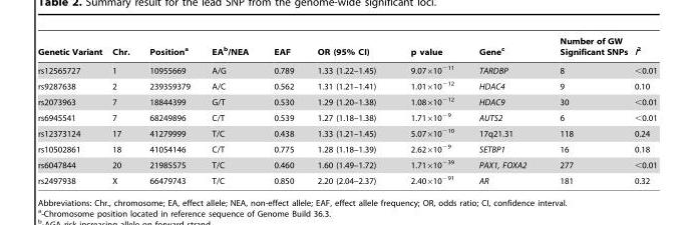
<table><thead><tr><td>Genetic Variant</td><td>Chr.</td><td>Position<sup>a</sup></td><td>EA<sup>b</sup>/NEA</td><td>EAF</td><td>OR (95% CI)</td><td>p value</td><td>Gene<sup>c</sup></td><td>Number of GW Significant SNPs</td><td>I<sup>2</sup></td></tr></thead><tbody><tr><td>rs12565727</td><td>1</td><td>10955669</td><td>A/G</td><td>0.789</td><td>1.33 (1.22–1.45)</td><td>9.07×10<sup>−11</sup></td><td>TARDBP</td><td>8</td><td>&lt;0.01</td></tr><tr><td>rs9287638</td><td>2</td><td>239359379</td><td>A/C</td><td>0.562</td><td>1.31 (1.21–1.41)</td><td>1.01×10<sup>−12</sup></td><td>HDAC4</td><td>9</td><td>0.10</td></tr><tr><td>rs2073963</td><td>7</td><td>18844399</td><td>G/T</td><td>0.530</td><td>1.29 (1.20–1.38)</td><td>1.08×10<sup>−12</sup></td><td>HDAC9</td><td>30</td><td>&lt;0.01</td></tr><tr><td>rs6945541</td><td>7</td><td>68249896</td><td>C/T</td><td>0.539</td><td>1.27 (1.18–1.38)</td><td>1.71×10<sup>−9</sup></td><td>AUTS2</td><td>6</td><td>&lt;0.01</td></tr><tr><td>rs12373124</td><td>17</td><td>41279999</td><td>T/C</td><td>0.438</td><td>1.33 (1.21–1.45)</td><td>5.07×10<sup>−10</sup></td><td>17q21.31</td><td>118</td><td>0.24</td></tr><tr><td>rs10502861</td><td>18</td><td>41054146</td><td>C/T</td><td>0.775</td><td>1.28 (1.18–1.39)</td><td>2.62×10<sup>−9</sup></td><td>SETBP1</td><td>16</td><td>0.18</td></tr><tr><td>rs6047844</td><td>20</td><td>21985575</td><td>T/C</td><td>0.460</td><td>1.60 (1.49–1.72)</td><td>1.71×10<sup>−39</sup></td><td>PAX1, FOXA2</td><td>277</td><td>&lt;0.01</td></tr><tr><td>rs2497938</td><td>X</td><td>66479743</td><td>T/C</td><td>0.850</td><td>2.20 (2.04–2.37)</td><td>2.40×10<sup>−91</sup></td><td>AR</td><td>181</td><td>0.32</td></tr></tbody></table>